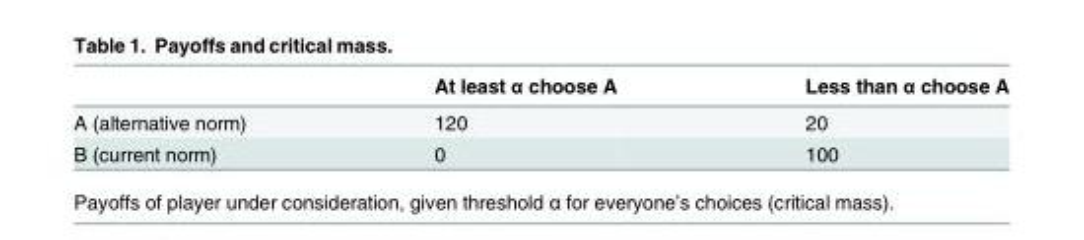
<table><thead><tr><td></td><td>At least α choose A</td><td>Less than α choose A</td></tr></thead><tbody><tr><td>A (alternative norm)</td><td>120</td><td>20</td></tr><tr><td>B (current norm)</td><td>0</td><td>100</td></tr></tbody></table>